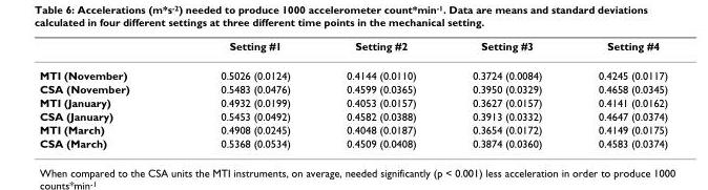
<table><thead><tr><td></td><td>Setting #1</td><td>Setting #2</td><td>Setting #3</td><td>Setting #4</td></tr></thead><tbody><tr><td>MTI (November)</td><td>0.5026 (0.0124)</td><td>0.4144 (0.0110)</td><td>0.3724 (0.0084)</td><td>0.4245 (0.0117)</td></tr><tr><td>CSA (November)</td><td>0.5483 (0.0476)</td><td>0.4599 (0.0365)</td><td>0.3950 (0.0329)</td><td>0.4658 (0.0345)</td></tr><tr><td>MTI (January)</td><td>0.4932 (0.0199)</td><td>0.4053 (0.0157)</td><td>0.3627 (0.0157)</td><td>0.4141 (0.0162)</td></tr><tr><td>CSA (January)</td><td>0.5453 (0.0492)</td><td>0.4582 (0.0388)</td><td>0.3913 (0.0332)</td><td>0.4647 (0.0374)</td></tr><tr><td>MTI (March)</td><td>0.4908 (0.0245)</td><td>0.4048 (0.0187)</td><td>0.3654 (0.0172)</td><td>0.4149 (0.0175)</td></tr><tr><td>CSA (March)</td><td>0.5368 (0.0534)</td><td>0.4509 (0.0408)</td><td>0.3874 (0.0360)</td><td>0.4583 (0.0374)</td></tr></tbody></table>